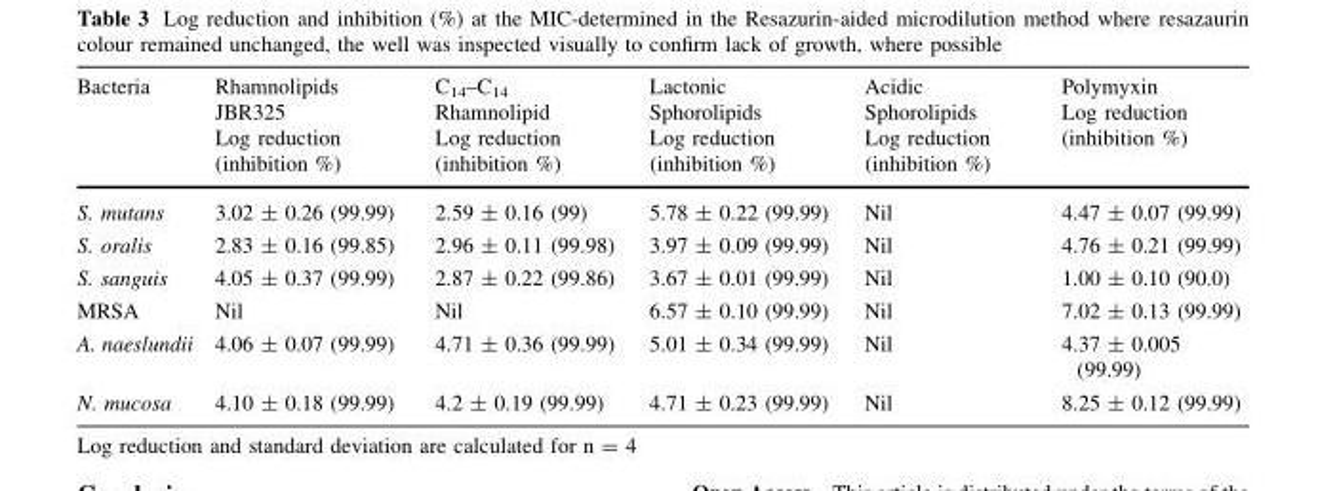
<table><thead><tr><td>Bacteria</td><td>Rhamnolipids JBR325 Log reduction (inhibition %)</td><td>C<sub>14</sub>–C<sub>14</sub> Rhamnolipid Log reduction (inhibition %)</td><td>Lactonic Sphorolipids Log reduction (inhibition %)</td><td>Acidic Sphorolipids Log reduction (inhibition %)</td><td>Polymyxin Log reduction (inhibition %)</td></tr></thead><tbody><tr><td>S. mutans</td><td>3.02 ± 0.26 (99.99)</td><td>2.59 ± 0.16 (99)</td><td>5.78 ± 0.22 (99.99)</td><td>Nil</td><td>4.47 ± 0.07 (99.99)</td></tr><tr><td>S. oralis</td><td>2.83 ± 0.16 (99.85)</td><td>2.96 ± 0.11 (99.98)</td><td>3.97 ± 0.09 (99.99)</td><td>Nil</td><td>4.76 ± 0.21 (99.99)</td></tr><tr><td>S. sanguis</td><td>4.05 ± 0.37 (99.99)</td><td>2.87 ± 0.22 (99.86)</td><td>3.67 ± 0.01 (99.99)</td><td>Nil</td><td>1.00 ± 0.10 (90.0)</td></tr><tr><td>MRSA</td><td>Nil</td><td>Nil</td><td>6.57 ± 0.10 (99.99)</td><td>Nil</td><td>7.02 ± 0.13 (99.99)</td></tr><tr><td>A. naeslundii</td><td>4.06 ± 0.07 (99.99)</td><td>4.71 ± 0.36 (99.99)</td><td>5.01 ± 0.34 (99.99)</td><td>Nil</td><td>4.37 ± 0.005 (99.99)</td></tr><tr><td>N. mucosa</td><td>4.10 ± 0.18 (99.99)</td><td>4.2 ± 0.19 (99.99)</td><td>4.71 ± 0.23 (99.99)</td><td>Nil</td><td>8.25 ± 0.12 (99.99)</td></tr></tbody></table>